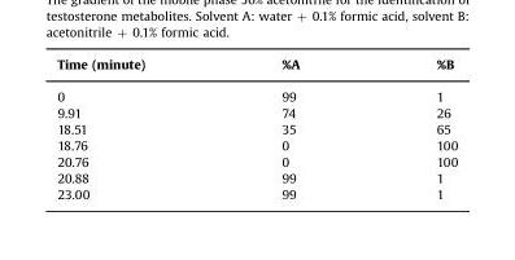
<table><thead><tr><td>Time (minute)</td><td>%A</td><td>%B</td></tr></thead><tbody><tr><td>0</td><td>99</td><td>1</td></tr><tr><td>9.91</td><td>74</td><td>26</td></tr><tr><td>18.51</td><td>35</td><td>65</td></tr><tr><td>18.76</td><td>0</td><td>100</td></tr><tr><td>20.76</td><td>0</td><td>100</td></tr><tr><td>20.88</td><td>99</td><td>1</td></tr><tr><td>23.00</td><td>99</td><td>1</td></tr></tbody></table>